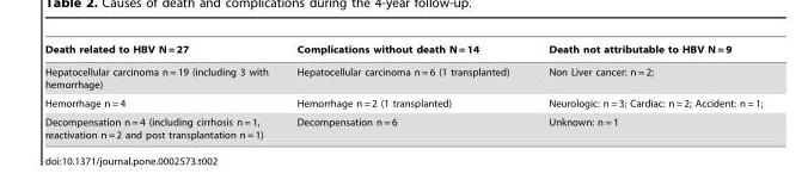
<table><thead><tr><td>Death related to HBV N = 27</td><td>Complications without death N = 14</td><td>Death not attributable to HBV N = 9</td></tr></thead><tbody><tr><td>Hepatocellular carcinoma n = 19 (including 3 with hemorrhage)</td><td>Hepatocellular carcinoma n = 6 (1 transplanted)</td><td>Non Liver cancer: n = 2;</td></tr><tr><td>Hemorrhage n = 4</td><td>Hemorrhage n = 2 (1 transplanted)</td><td>Neurologic: n = 3; Cardiac: n = 2; Accident: n = 1;</td></tr><tr><td>Decompensation n = 4 (including cirrhosis n = 1, reactivation n = 2 and post transplantation n = 1)</td><td>Decompensation n = 6</td><td>Unknown: n = 1</td></tr></tbody></table>